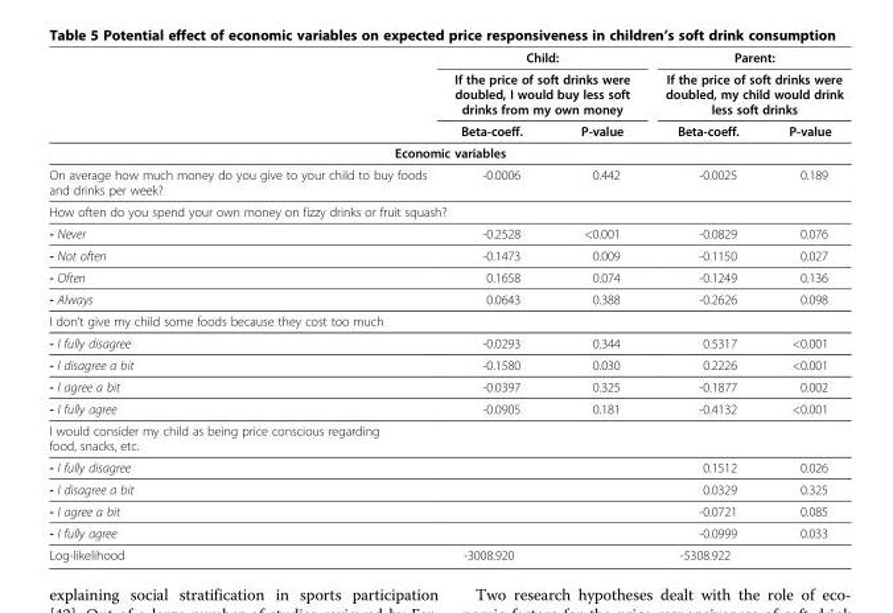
<table><thead><tr><td rowspan="3"></td><td rowspan="2" colspan="2">Child: If the price of soft drinks were doubled, I would buy less soft drinks from my own money</td><td rowspan="2" colspan="2">Parent: If the price of soft drinks were doubled, my child would drink less soft drinks</td></tr><tr></tr><tr><td>Beta-coeff.</td><td>P-value</td><td>Beta-coeff.</td><td>P-value</td></tr></thead><tbody><tr><td colspan="5">Economic variables</td></tr><tr><td>On average how much money do you give to your child to buy foods and drinks per week?</td><td>-0.0006</td><td>0.442</td><td>-0.0025</td><td>0.189</td></tr><tr><td colspan="5">How often do you spend your own money on fizzy drinks or fruit squash?</td></tr><tr><td>- Never</td><td>-0.2528</td><td>&lt;0.001</td><td>-0.0829</td><td>0.076</td></tr><tr><td>- Not often</td><td>-0.1473</td><td>0.009</td><td>-0.1150</td><td>0.027</td></tr><tr><td>- Often</td><td>0.1658</td><td>0.074</td><td>-0.1249</td><td>0.136</td></tr><tr><td>- Always</td><td>0.0643</td><td>0.388</td><td>-0.2626</td><td>0.098</td></tr><tr><td colspan="5">I don’t give my child some foods because they cost too much</td></tr><tr><td>- I fully disagree</td><td>-0.0293</td><td>0.344</td><td>0.5317</td><td>&lt;0.001</td></tr><tr><td>- I disagree a bit</td><td>-0.1580</td><td>0.030</td><td>0.2226</td><td>&lt;0.001</td></tr><tr><td>- I agree a bit</td><td>-0.0397</td><td>0.325</td><td>-0.1877</td><td>0.002</td></tr><tr><td>- I fully agree</td><td>-0.0905</td><td>0.181</td><td>-0.4132</td><td>&lt;0.001</td></tr><tr><td colspan="5">I would consider my child as being price conscious regarding food, snacks, etc.</td></tr><tr><td>- I fully disagree</td><td></td><td></td><td>0.1512</td><td>0.026</td></tr><tr><td>- I disagree a bit</td><td></td><td></td><td>0.0329</td><td>0.325</td></tr><tr><td>- I agree a bit</td><td></td><td></td><td>-0.0721</td><td>0.085</td></tr><tr><td>- I fully agree</td><td></td><td></td><td>-0.0999</td><td>0.033</td></tr><tr><td>Log-likelihood</td><td>-3008.920</td><td></td><td>-5308.922</td><td></td></tr></tbody></table>